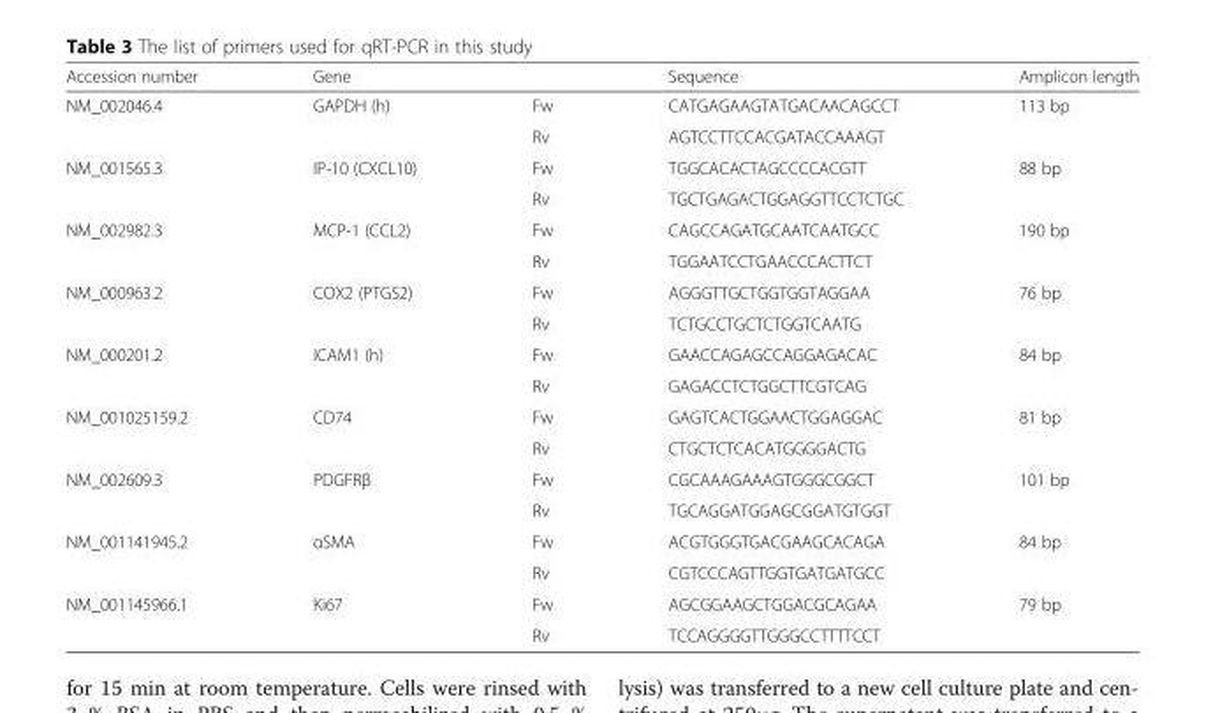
<table><thead><tr><td>Accession number</td><td>Gene</td><td></td><td>Sequence</td><td>Amplicon length</td></tr></thead><tbody><tr><td rowspan="2">NM_002046.4</td><td rowspan="2">GAPDH (h)</td><td>Fw</td><td>CATGAGAAGTATGACAACAGCCT</td><td rowspan="2">113 bp</td></tr><tr><td>Rv</td><td>AGTCCTTCCACGATACCAAAGT</td></tr><tr><td rowspan="2">NM_001565.3</td><td rowspan="2">IP-10 (CXCL10)</td><td>Fw</td><td>TGGCACACTAGCCCCACGTT</td><td rowspan="2">88 bp</td></tr><tr><td>Rv</td><td>TGCTGAGACTGGAGGTTCCTCTGC</td></tr><tr><td rowspan="2">NM_002982.3</td><td rowspan="2">MCP-1 (CCL2)</td><td>Fw</td><td>CAGCCAGATGCAATCAATGCC</td><td rowspan="2">190 bp</td></tr><tr><td>Rv</td><td>TGGAATCCTGAACCCACTTCT</td></tr><tr><td rowspan="2">NM_000963.2</td><td rowspan="2">COX2 (PTGS2)</td><td>Fw</td><td>AGGGTTGCTGGTGGTAGGAA</td><td rowspan="2">76 bp</td></tr><tr><td>Rv</td><td>TCTGCCTGCTCTGGTCAATG</td></tr><tr><td rowspan="2">NM_000201.2</td><td rowspan="2">ICAM1 (h)</td><td>Fw</td><td>GAACCAGAGCCAGGAGACAC</td><td rowspan="2">84 bp</td></tr><tr><td>Rv</td><td>GAGACCTCTGGCTTCGTCAG</td></tr><tr><td rowspan="2">NM_001025159.2</td><td rowspan="2">CD74</td><td>Fw</td><td>GAGTCACTGGAACTGGAGGAC</td><td rowspan="2">81 bp</td></tr><tr><td>Rv</td><td>CTGCTCTCACATGGGGACTG</td></tr><tr><td rowspan="2">NM_002609.3</td><td rowspan="2">PDGFRβ</td><td>Fw</td><td>CGCAAAGAAAGTGGGCGGCT</td><td rowspan="2">101 bp</td></tr><tr><td>Rv</td><td>TGCAGGATGGAGCGGATGTGGT</td></tr><tr><td rowspan="2">NM_001141945.2</td><td rowspan="2">αSMA</td><td>Fw</td><td>ACGTGGGTGACGAAGCACAGA</td><td rowspan="2">84 bp</td></tr><tr><td>Rv</td><td>CGTCCCAGTTGGTGATGATGCC</td></tr><tr><td rowspan="2">NM_001145966.1</td><td rowspan="2">Ki67</td><td>Fw</td><td>AGCGGAAGCTGGACGCAGAA</td><td rowspan="2">79 bp</td></tr><tr><td>Rv</td><td>TCCAGGGGTTGGGCCTTTTCCT</td></tr></tbody></table>